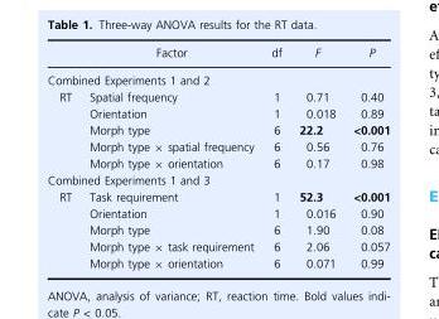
<table><thead><tr><td></td><td>Factor</td><td>df</td><td>F</td><td>P</td></tr></thead><tbody><tr><td colspan="5">Combined Experiments 1 and 2</td></tr><tr><td rowspan="5">RT</td><td>Spatial frequency</td><td>1</td><td>0.71</td><td>0.40</td></tr><tr><td>Orientation</td><td>1</td><td>0.018</td><td>0.89</td></tr><tr><td>Morph type</td><td>6</td><td>22.2</td><td>&lt;0.001</td></tr><tr><td>Morph type × spatial frequency</td><td>6</td><td>0.56</td><td>0.76</td></tr><tr><td>Morph type × orientation</td><td>6</td><td>0.17</td><td>0.98</td></tr><tr><td colspan="5">Combined Experiments 1 and 3</td></tr><tr><td rowspan="5">RT</td><td>Task requirement</td><td>1</td><td>52.3</td><td>&lt;0.001</td></tr><tr><td>Orientation</td><td>1</td><td>0.016</td><td>0.90</td></tr><tr><td>Morph type</td><td>6</td><td>1.90</td><td>0.08</td></tr><tr><td>Morph type × task requirement</td><td>6</td><td>2.06</td><td>0.057</td></tr><tr><td>Morph type × orientation</td><td>6</td><td>0.071</td><td>0.99</td></tr></tbody></table>